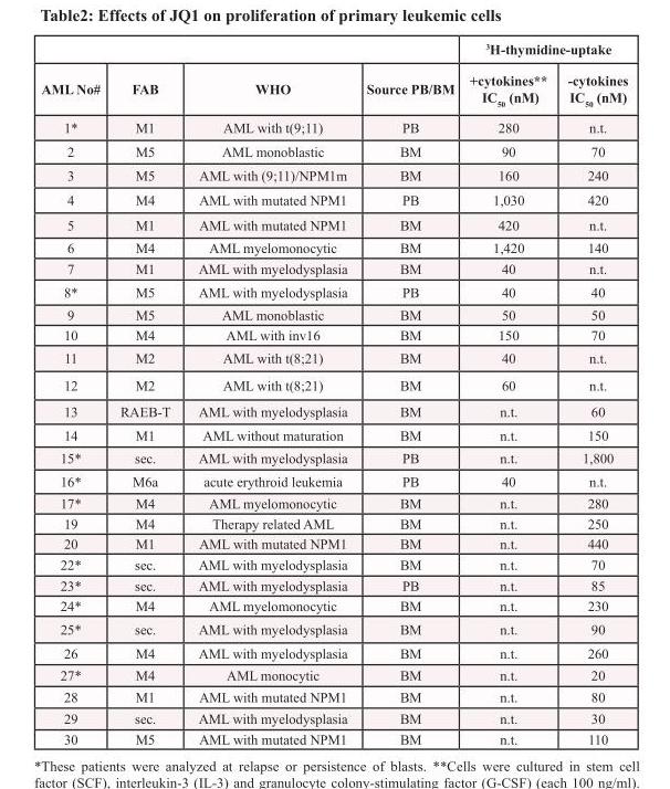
<table><thead><tr><td rowspan="2">AML No#</td><td rowspan="2">FAB</td><td rowspan="2">WHO</td><td rowspan="2">Source PB/BM</td><td colspan="2"><sup>3</sup>H-thymidine-uptake</td></tr><tr><td>+cytokines** IC<sub>50</sub> (nM)</td><td>-cytokines IC<sub>50</sub> (nM)</td></tr></thead><tbody><tr><td>1*</td><td>M1</td><td>AML with t(9;11)</td><td>PB</td><td>280</td><td>n.t.</td></tr><tr><td>2</td><td>M5</td><td>AML monoblastic</td><td>BM</td><td>90</td><td>70</td></tr><tr><td>3</td><td>M5</td><td>AML with (9;11)/NPM1m</td><td>BM</td><td>160</td><td>240</td></tr><tr><td>4</td><td>M4</td><td>AML with mutated NPM1</td><td>PB</td><td>1,030</td><td>420</td></tr><tr><td>5</td><td>M1</td><td>AML with mutated NPM1</td><td>BM</td><td>420</td><td>n.t.</td></tr><tr><td>6</td><td>M4</td><td>AML myelomonocytic</td><td>BM</td><td>1,420</td><td>140</td></tr><tr><td>7</td><td>M1</td><td>AML with myelodysplasia</td><td>BM</td><td>40</td><td>n.t.</td></tr><tr><td>8*</td><td>M5</td><td>AML with myelodysplasia</td><td>PB</td><td>40</td><td>40</td></tr><tr><td>9</td><td>M5</td><td>AML monoblastic</td><td>BM</td><td>50</td><td>50</td></tr><tr><td>10</td><td>M4</td><td>AML with inv16</td><td>BM</td><td>150</td><td>70</td></tr><tr><td>11</td><td>M2</td><td>AML with t(8;21)</td><td>BM</td><td>40</td><td>n.t.</td></tr><tr><td>12</td><td>M2</td><td>AML with t(8;21)</td><td>BM</td><td>60</td><td>n.t.</td></tr><tr><td>13</td><td>RAEB-T</td><td>AML with myelodysplasia</td><td>BM</td><td>n.t.</td><td>60</td></tr><tr><td>14</td><td>M1</td><td>AML without maturation</td><td>BM</td><td>n.t.</td><td>150</td></tr><tr><td>15*</td><td>sec.</td><td>AML with myelodysplasia</td><td>PB</td><td>n.t.</td><td>1,800</td></tr><tr><td>16*</td><td>M6a</td><td>acute erythroid leukemia</td><td>PB</td><td>40</td><td>n.t.</td></tr><tr><td>17*</td><td>M4</td><td>AML myelomonocytic</td><td>BM</td><td>n.t.</td><td>280</td></tr><tr><td>19</td><td>M4</td><td>Therapy related AML</td><td>BM</td><td>n.t.</td><td>250</td></tr><tr><td>20</td><td>M1</td><td>AML with mutated NPM1</td><td>BM</td><td>n.t.</td><td>440</td></tr><tr><td>22*</td><td>sec.</td><td>AML with myelodysplasia</td><td>BM</td><td>n.t.</td><td>70</td></tr><tr><td>23*</td><td>sec.</td><td>AML with myelodysplasia</td><td>PB</td><td>n.t.</td><td>85</td></tr><tr><td>24*</td><td>M4</td><td>AML myelomonocytic</td><td>BM</td><td>n.t.</td><td>230</td></tr><tr><td>25*</td><td>sec.</td><td>AML with myelodysplasia</td><td>BM</td><td>n.t.</td><td>90</td></tr><tr><td>26</td><td>M4</td><td>AML with myelodysplasia</td><td>BM</td><td>n.t.</td><td>260</td></tr><tr><td>27*</td><td>M4</td><td>AML monocytic</td><td>BM</td><td>n.t.</td><td>20</td></tr><tr><td>28</td><td>M1</td><td>AML with mutated NPM1</td><td>BM</td><td>n.t.</td><td>80</td></tr><tr><td>29</td><td>sec.</td><td>AML with myelodysplasia</td><td>BM</td><td>n.t.</td><td>30</td></tr><tr><td>30</td><td>M5</td><td>AML with mutated NPM1</td><td>BM</td><td>n.t.</td><td>110</td></tr></tbody></table>